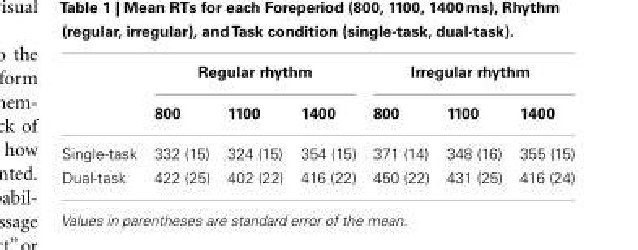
<table><thead><tr><td rowspan="2"></td><td colspan="3">Regular rhythm</td><td colspan="3">Irregular rhythm</td></tr><tr><td>800</td><td>1100</td><td>1400</td><td>800</td><td>1100</td><td>1400</td></tr></thead><tbody><tr><td>Single-task</td><td>332 (15)</td><td>324 (15)</td><td>354 (15)</td><td>371 (14)</td><td>348 (16)</td><td>355 (15)</td></tr><tr><td>Dual-task</td><td>422 (25)</td><td>402 (22)</td><td>416 (22)</td><td>450 (22)</td><td>431 (25)</td><td>416 (24)</td></tr></tbody></table>